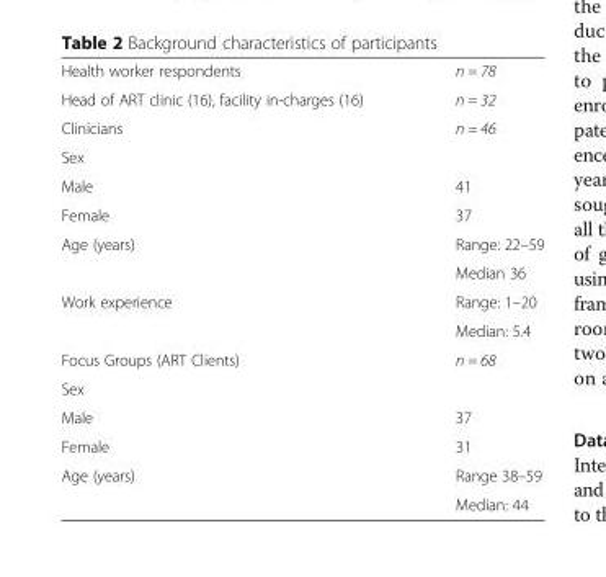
<table><tbody><tr><td>Health worker respondents</td><td>n = 78</td></tr><tr><td>Head of ART clinic (16), facility in-charges (16)</td><td>n = 32</td></tr><tr><td>Clinicians</td><td>n = 46</td></tr><tr><td colspan="2">Sex</td></tr><tr><td>Male</td><td>41</td></tr><tr><td>Female</td><td>37</td></tr><tr><td rowspan="2">Age (years)</td><td>Range: 22–59</td></tr><tr><td>Median 36</td></tr><tr><td rowspan="2">Work experience</td><td>Range: 1–20</td></tr><tr><td>Median: 5.4</td></tr><tr><td>Focus Groups (ART Clients)</td><td>n = 68</td></tr><tr><td colspan="2">Sex</td></tr><tr><td>Male</td><td>37</td></tr><tr><td>Female</td><td>31</td></tr><tr><td rowspan="2">Age (years)</td><td>Range 38–59</td></tr><tr><td>Median: 44</td></tr></tbody></table>